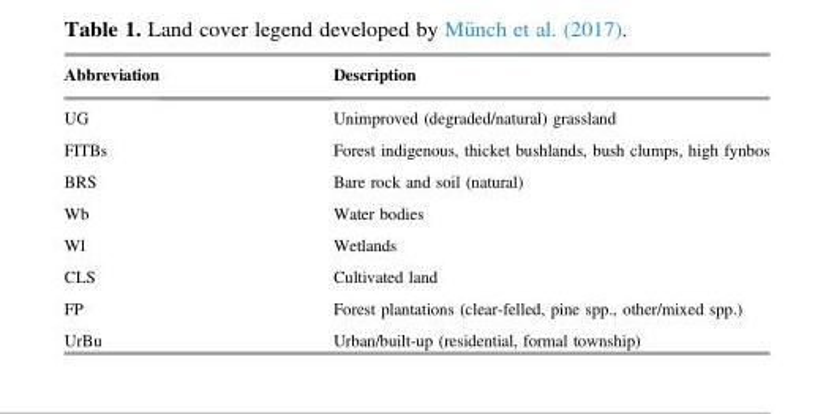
<table><thead><tr><td>Abbreviation</td><td>Description</td></tr></thead><tbody><tr><td>UG</td><td>Unimproved (degraded/natural) grassland</td></tr><tr><td>FITBs</td><td>Forest indigenous, thicket bushlands, bush clumps, high fynbos</td></tr><tr><td>BRS</td><td>Bare rock and soil (natural)</td></tr><tr><td>Wb</td><td>Water bodies</td></tr><tr><td>Wl</td><td>Wetlands</td></tr><tr><td>CLS</td><td>Cultivated land</td></tr><tr><td>FP</td><td>Forest plantations (clear-felled, pine spp., other/mixed spp.)</td></tr><tr><td>UrBu</td><td>Urban/built-up (residential, formal township)</td></tr></tbody></table>